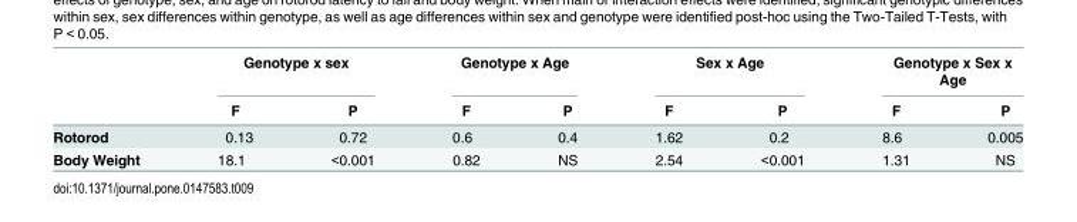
<table><thead><tr><td rowspan="2"></td><td colspan="2">Genotype x sex</td><td colspan="2">Genotype x Age</td><td colspan="2">Sex x Age</td><td colspan="2">Genotype x Sex x Age</td></tr><tr><td>F</td><td>P</td><td>F</td><td>P</td><td>F</td><td>P</td><td>F</td><td>P</td></tr></thead><tbody><tr><td>Rotorod</td><td>0.13</td><td>0.72</td><td>0.6</td><td>0.4</td><td>1.62</td><td>0.2</td><td>8.6</td><td>0.005</td></tr><tr><td>Body Weight</td><td>18.1</td><td>&lt;0.001</td><td>0.82</td><td>NS</td><td>2.54</td><td>&lt;0.001</td><td>1.31</td><td>NS</td></tr></tbody></table>